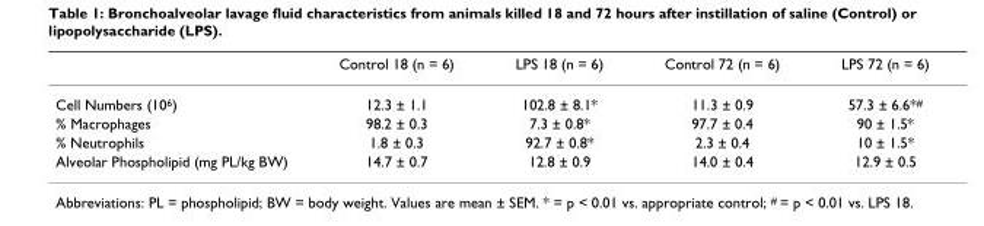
<table><thead><tr><td></td><td>Control 18 (n = 6)</td><td>LPS 18 (n = 6)</td><td>Control 72 (n = 6)</td><td>LPS 72 (n = 6)</td></tr></thead><tbody><tr><td>Cell Numbers (10<sup>6</sup>)</td><td>12.3 ± 1.1</td><td>102.8 ± 8.1*</td><td>11.3 ± 0.9</td><td>57.3 ± 6.6*<sup>#</sup></td></tr><tr><td>% Macrophages</td><td>98.2 ± 0.3</td><td>7.3 ± 0.8*</td><td>97.7 ± 0.4</td><td>90 ± 1.5*</td></tr><tr><td>% Neutrophils</td><td>1.8 ± 0.3</td><td>92.7 ± 0.8*</td><td>2.3 ± 0.4</td><td>10 ± 1.5*</td></tr><tr><td>Alveolar Phospholipid (mg PL/kg BW)</td><td>14.7 ± 0.7</td><td>12.8 ± 0.9</td><td>14.0 ± 0.4</td><td>12.9 ± 0.5</td></tr></tbody></table>